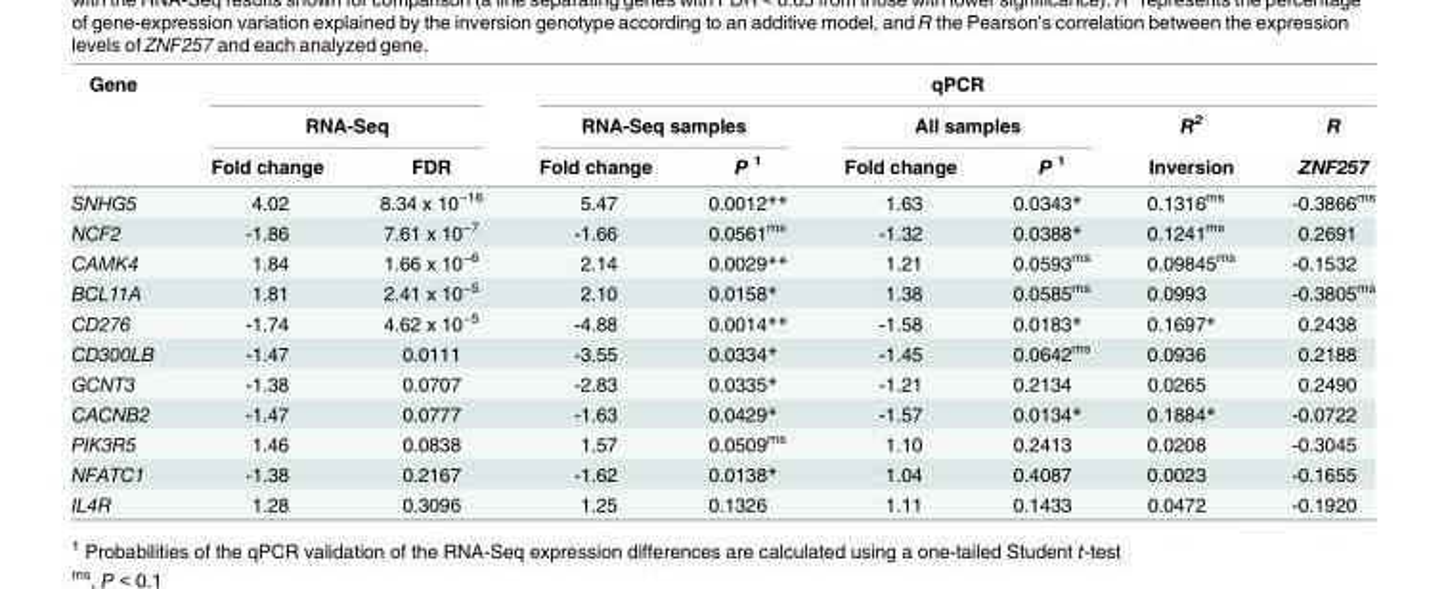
<table><thead><tr><td rowspan="3">Gene</td><td></td><td></td><td colspan="6">qPCR</td></tr><tr><td colspan="2">RNA-Seq</td><td colspan="2">RNA-Seq samples</td><td colspan="2">All samples</td><td rowspan="2">R<sup>2</sup> Inversion</td><td rowspan="2">R ZNF257</td></tr><tr><td>Fold change</td><td>FDR</td><td>Fold change</td><td>P <sup>1</sup></td><td>Fold change</td><td>P <sup>1</sup></td></tr></thead><tbody><tr><td>SNHG5</td><td>4.02</td><td>8.34 x 10<sup>−16</sup></td><td>5.47</td><td>0.0012**</td><td>1.63</td><td>0.0343*</td><td>0.1316<sup>ms</sup></td><td>-0.3866<sup>ms</sup></td></tr><tr><td>NCF2</td><td>-1.86</td><td>7.61 x 10<sup>−7</sup></td><td>-1.66</td><td>0.0561<sup>ms</sup></td><td>-1.32</td><td>0.0388*</td><td>0.1241<sup>ms</sup></td><td>0.2691</td></tr><tr><td>CAMK4</td><td>1.84</td><td>1.66 x 10<sup>−6</sup></td><td>2.14</td><td>0.0029**</td><td>1.21</td><td>0.0593<sup>ms</sup></td><td>0.09845<sup>ms</sup></td><td>-0.1532</td></tr><tr><td>BCL11A</td><td>1.81</td><td>2.41 x 10<sup>−5</sup></td><td>2.10</td><td>0.0158*</td><td>1.38</td><td>0.0585<sup>ms</sup></td><td>0.0993</td><td>-0.3805<sup>ms</sup></td></tr><tr><td>CD276</td><td>-1.74</td><td>4.62 x 10<sup>−5</sup></td><td>-4.88</td><td>0.0014**</td><td>-1.58</td><td>0.0183*</td><td>0.1697*</td><td>0.2438</td></tr><tr><td>CD300LB</td><td>-1.47</td><td>0.0111</td><td>-3.55</td><td>0.0334*</td><td>-1.45</td><td>0.0642<sup>ms</sup></td><td>0.0936</td><td>0.2188</td></tr><tr><td>GCNT3</td><td>-1.38</td><td>0.0707</td><td>-2.83</td><td>0.0335*</td><td>-1.21</td><td>0.2134</td><td>0.0265</td><td>0.2490</td></tr><tr><td>CACNB2</td><td>-1.47</td><td>0.0777</td><td>-1.63</td><td>0.0429*</td><td>-1.57</td><td>0.0134*</td><td>0.1884*</td><td>-0.0722</td></tr><tr><td>PIK3R5</td><td>1.46</td><td>0.0838</td><td>1.57</td><td>0.0509<sup>ms</sup></td><td>1.10</td><td>0.2413</td><td>0.0208</td><td>-0.3045</td></tr><tr><td>NFATC1</td><td>-1.38</td><td>0.2167</td><td>-1.62</td><td>0.0138*</td><td>1.04</td><td>0.4087</td><td>0.0023</td><td>-0.1655</td></tr><tr><td>IL4R</td><td>1.28</td><td>0.3096</td><td>1.25</td><td>0.1326</td><td>1.11</td><td>0.1433</td><td>0.0472</td><td>-0.1920</td></tr></tbody></table>